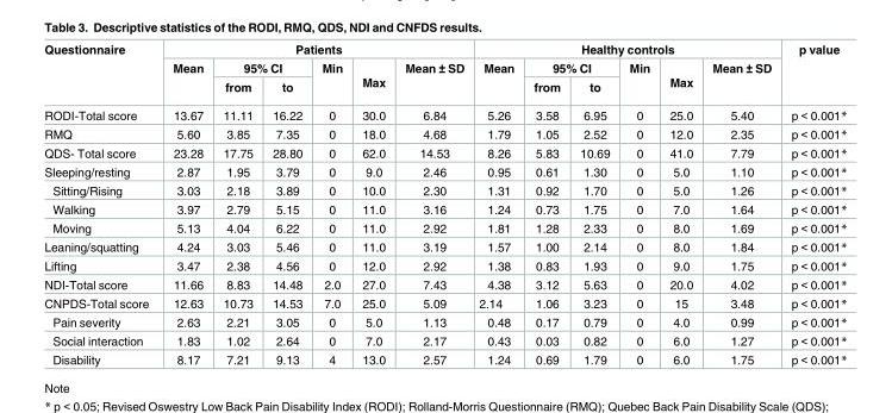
<table><thead><tr><td rowspan="3">Questionnaire</td><td colspan="6">Patients</td><td colspan="6">Healthy controls</td><td rowspan="3">p value</td></tr><tr><td rowspan="2">Mean</td><td colspan="2">95% CI</td><td rowspan="2">Min</td><td rowspan="2">Max</td><td rowspan="2">Mean ± SD</td><td rowspan="2">Mean</td><td colspan="2">95% CI</td><td rowspan="2">Min</td><td rowspan="2">Max</td><td rowspan="2">Mean ± SD</td></tr><tr><td>from</td><td>to</td><td>from</td><td>to</td></tr></thead><tbody><tr><td>RODI-Total score</td><td>13.67</td><td>11.11</td><td>16.22</td><td>0</td><td>30.0</td><td>6.84</td><td>5.26</td><td>3.58</td><td>6.95</td><td>0</td><td>25.0</td><td>5.40</td><td>p &lt; 0.001*</td></tr><tr><td>RMQ</td><td>5.60</td><td>3.85</td><td>7.35</td><td>0</td><td>18.0</td><td>4.68</td><td>1.79</td><td>1.05</td><td>2.52</td><td>0</td><td>12.0</td><td>2.35</td><td>p &lt; 0.001*</td></tr><tr><td>QDS- Total score</td><td>23.28</td><td>17.75</td><td>28.80</td><td>0</td><td>62.0</td><td>14.53</td><td>8.26</td><td>5.83</td><td>10.69</td><td>0</td><td>41.0</td><td>7.79</td><td>p &lt; 0.001*</td></tr><tr><td>Sleeping/resting</td><td>2.87</td><td>1.95</td><td>3.79</td><td>0</td><td>9.0</td><td>2.46</td><td>0.95</td><td>0.61</td><td>1.30</td><td>0</td><td>5.0</td><td>1.10</td><td>p &lt; 0.001*</td></tr><tr><td>Sitting/Rising</td><td>3.03</td><td>2.18</td><td>3.89</td><td>0</td><td>10.0</td><td>2.30</td><td>1.31</td><td>0.92</td><td>1.70</td><td>0</td><td>5.0</td><td>1.26</td><td>p &lt; 0.001*</td></tr><tr><td>Walking</td><td>3.97</td><td>2.79</td><td>5.15</td><td>0</td><td>11.0</td><td>3.16</td><td>1.24</td><td>0.73</td><td>1.75</td><td>0</td><td>7.0</td><td>1.64</td><td>p &lt; 0.001*</td></tr><tr><td>Moving</td><td>5.13</td><td>4.04</td><td>6.22</td><td>0</td><td>11.0</td><td>2.92</td><td>1.81</td><td>1.28</td><td>2.33</td><td>0</td><td>8.0</td><td>1.69</td><td>p &lt; 0.001*</td></tr><tr><td>Leaning/squatting</td><td>4.24</td><td>3.03</td><td>5.46</td><td>0</td><td>11.0</td><td>3.19</td><td>1.57</td><td>1.00</td><td>2.14</td><td>0</td><td>8.0</td><td>1.84</td><td>p &lt; 0.001*</td></tr><tr><td>Lifting</td><td>3.47</td><td>2.38</td><td>4.56</td><td>0</td><td>12.0</td><td>2.92</td><td>1.38</td><td>0.83</td><td>1.93</td><td>0</td><td>9.0</td><td>1.75</td><td>p &lt; 0.001*</td></tr><tr><td>NDI-Total score</td><td>11.66</td><td>8.83</td><td>14.48</td><td>2.0</td><td>27.0</td><td>7.43</td><td>4.38</td><td>3.12</td><td>5.63</td><td>0</td><td>20.0</td><td>4.02</td><td>p &lt; 0.001*</td></tr><tr><td>CNPDS-Total score</td><td>12.63</td><td>10.73</td><td>14.53</td><td>7.0</td><td>25.0</td><td>5.09</td><td>2.14</td><td>1.06</td><td>3.23</td><td>0</td><td>15</td><td>3.48</td><td>p &lt; 0.001*</td></tr><tr><td>Pain severity</td><td>2.63</td><td>2.21</td><td>3.05</td><td>0</td><td>5.0</td><td>1.13</td><td>0.48</td><td>0.17</td><td>0.79</td><td>0</td><td>4.0</td><td>0.99</td><td>p &lt; 0.001*</td></tr><tr><td>Social interaction</td><td>1.83</td><td>1.02</td><td>2.64</td><td>0</td><td>7.0</td><td>2.17</td><td>0.43</td><td>0.03</td><td>0.82</td><td>0</td><td>6.0</td><td>1.27</td><td>p &lt; 0.001*</td></tr><tr><td>Disability</td><td>8.17</td><td>7.21</td><td>9.13</td><td>4</td><td>13.0</td><td>2.57</td><td>1.24</td><td>0.69</td><td>1.79</td><td>0</td><td>6.0</td><td>1.75</td><td>p &lt; 0.001*</td></tr></tbody></table>